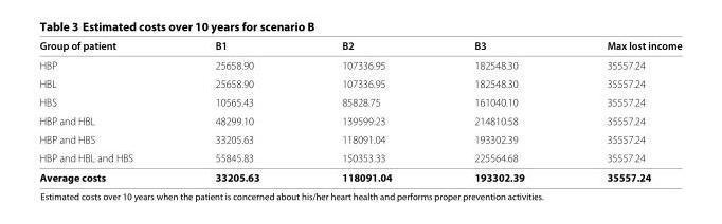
<table><thead><tr><td>Group of patient</td><td>B1</td><td>B2</td><td>B3</td><td>Max lost income</td></tr></thead><tbody><tr><td>HBP</td><td>25658.90</td><td>107336.95</td><td>182548.30</td><td>35557.24</td></tr><tr><td>HBL</td><td>25658.90</td><td>107336.95</td><td>182548.30</td><td>35557.24</td></tr><tr><td>HBS</td><td>10565.43</td><td>85828.75</td><td>161040.10</td><td>35557.24</td></tr><tr><td>HBP and HBL</td><td>48299.10</td><td>139599.23</td><td>214810.58</td><td>35557.24</td></tr><tr><td>HBP and HBS</td><td>33205.63</td><td>118091.04</td><td>193302.39</td><td>35557.24</td></tr><tr><td>HBP and HBL and HBS</td><td>55845.83</td><td>150353.33</td><td>225564.68</td><td>35557.24</td></tr><tr><td>Average costs</td><td>33205.63</td><td>118091.04</td><td>193302.39</td><td>35557.24</td></tr></tbody></table>